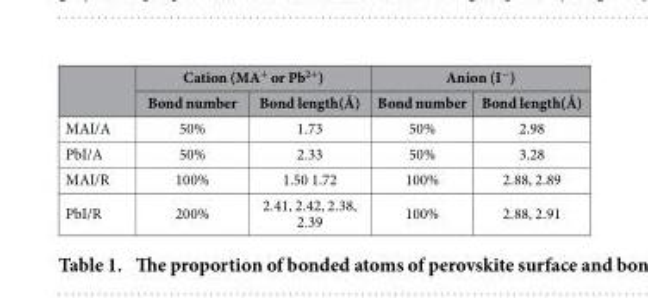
<table><thead><tr><td rowspan="2"></td><td colspan="2">Cation (MA<sup>+</sup> or Pb<sup>2+</sup>)</td><td colspan="2">Anion (I<sup>−</sup>)</td></tr><tr><td>Bond number</td><td>Bond length(Å)</td><td>Bond number</td><td>Bond length(Å)</td></tr></thead><tbody><tr><td>MAI/A</td><td>50%</td><td>1.73</td><td>50%</td><td>2.98</td></tr><tr><td>PbI/A</td><td>50%</td><td>2.33</td><td>50%</td><td>3.28</td></tr><tr><td>MAI/R</td><td>100%</td><td>1.50 1.72</td><td>100%</td><td>2.88, 2.89</td></tr><tr><td>PbI/R</td><td>200%</td><td>2.41, 2.42, 2.38, 2.39</td><td>100%</td><td>2.88, 2.91</td></tr></tbody></table>